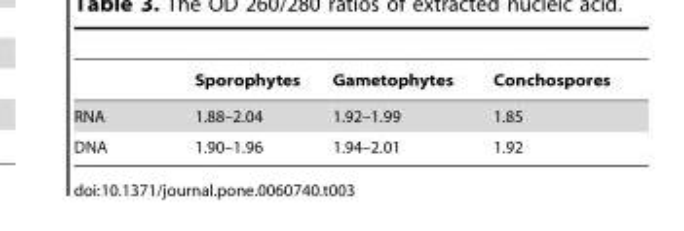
<table><thead><tr><td></td><td>Sporophytes</td><td>Gametophytes</td><td>Conchospores</td></tr></thead><tbody><tr><td>RNA</td><td>1.88–2.04</td><td>1.92–1.99</td><td>1.85</td></tr><tr><td>DNA</td><td>1.90–1.96</td><td>1.94–2.01</td><td>1.92</td></tr></tbody></table>